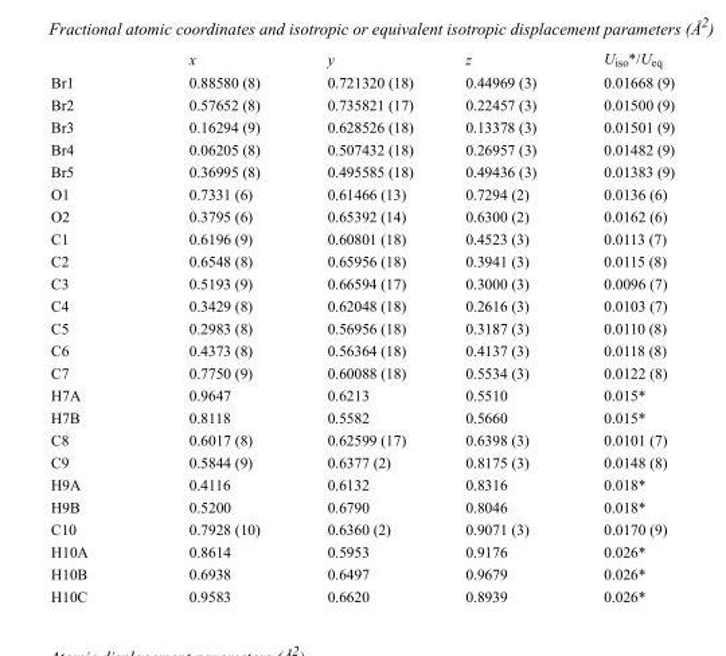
<table><thead><tr><td></td><td>x</td><td>y</td><td>z</td><td>U<sub>iso</sub>*/U<sub>eq</sub></td></tr></thead><tbody><tr><td>Br1</td><td>0.88580 (8)</td><td>0.721320 (18)</td><td>0.44969 (3)</td><td>0.01668 (9)</td></tr><tr><td>Br2</td><td>0.57652 (8)</td><td>0.735821 (17)</td><td>0.22457 (3)</td><td>0.01500 (9)</td></tr><tr><td>Br3</td><td>0.16294 (9)</td><td>0.628526 (18)</td><td>0.13378 (3)</td><td>0.01501 (9)</td></tr><tr><td>Br4</td><td>0.06205 (8)</td><td>0.507432 (18)</td><td>0.26957 (3)</td><td>0.01482 (9)</td></tr><tr><td>Br5</td><td>0.36995 (8)</td><td>0.495585 (18)</td><td>0.49436 (3)</td><td>0.01383 (9)</td></tr><tr><td>O1</td><td>0.7331 (6)</td><td>0.61466 (13)</td><td>0.7294 (2)</td><td>0.0136 (6)</td></tr><tr><td>O2</td><td>0.3795 (6)</td><td>0.65392 (14)</td><td>0.6300 (2)</td><td>0.0162 (6)</td></tr><tr><td>C1</td><td>0.6196 (9)</td><td>0.60801 (18)</td><td>0.4523 (3)</td><td>0.0113 (7)</td></tr><tr><td>C2</td><td>0.6548 (8)</td><td>0.65956 (18)</td><td>0.3941 (3)</td><td>0.0115 (8)</td></tr><tr><td>C3</td><td>0.5193 (9)</td><td>0.66594 (17)</td><td>0.3000 (3)</td><td>0.0096 (7)</td></tr><tr><td>C4</td><td>0.3429 (8)</td><td>0.62048 (18)</td><td>0.2616 (3)</td><td>0.0103 (7)</td></tr><tr><td>C5</td><td>0.2983 (8)</td><td>0.56956 (18)</td><td>0.3187 (3)</td><td>0.0110 (8)</td></tr><tr><td>C6</td><td>0.4373 (8)</td><td>0.56364 (18)</td><td>0.4137 (3)</td><td>0.0118 (8)</td></tr><tr><td>C7</td><td>0.7750 (9)</td><td>0.60088 (18)</td><td>0.5534 (3)</td><td>0.0122 (8)</td></tr><tr><td>H7A</td><td>0.9647</td><td>0.6213</td><td>0.5510</td><td>0.015*</td></tr><tr><td>H7B</td><td>0.8118</td><td>0.5582</td><td>0.5660</td><td>0.015*</td></tr><tr><td>C8</td><td>0.6017 (8)</td><td>0.62599 (17)</td><td>0.6398 (3)</td><td>0.0101 (7)</td></tr><tr><td>C9</td><td>0.5844 (9)</td><td>0.6377 (2)</td><td>0.8175 (3)</td><td>0.0148 (8)</td></tr><tr><td>H9A</td><td>0.4116</td><td>0.6132</td><td>0.8316</td><td>0.018*</td></tr><tr><td>H9B</td><td>0.5200</td><td>0.6790</td><td>0.8046</td><td>0.018*</td></tr><tr><td>C10</td><td>0.7928 (10)</td><td>0.6360 (2)</td><td>0.9071 (3)</td><td>0.0170 (9)</td></tr><tr><td>H10A</td><td>0.8614</td><td>0.5953</td><td>0.9176</td><td>0.026*</td></tr><tr><td>H10B</td><td>0.6938</td><td>0.6497</td><td>0.9679</td><td>0.026*</td></tr><tr><td>H10C</td><td>0.9583</td><td>0.6620</td><td>0.8939</td><td>0.026*</td></tr></tbody></table>